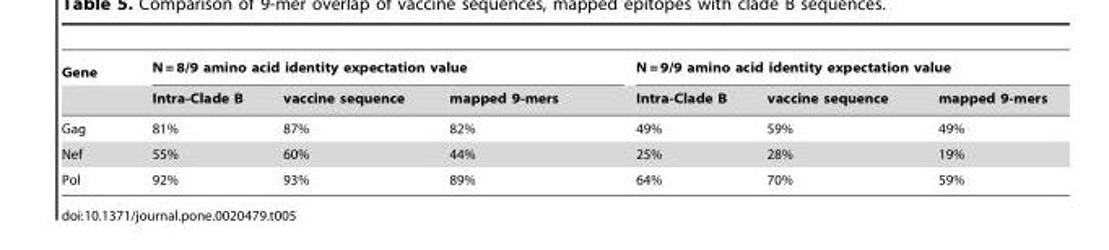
<table><thead><tr><td rowspan="2">Gene</td><td colspan="3">N = 8/9 amino acid identity expectation value</td><td colspan="3">N = 9/9 amino acid identity expectation value</td></tr><tr><td>Intra-Clade B</td><td>vaccine sequence</td><td>mapped 9-mers</td><td>Intra-Clade B</td><td>vaccine sequence</td><td>mapped 9-mers</td></tr></thead><tbody><tr><td>Gag</td><td>81%</td><td>87%</td><td>82%</td><td>49%</td><td>59%</td><td>49%</td></tr><tr><td>Nef</td><td>55%</td><td>60%</td><td>44%</td><td>25%</td><td>28%</td><td>19%</td></tr><tr><td>Pol</td><td>92%</td><td>93%</td><td>89%</td><td>64%</td><td>70%</td><td>59%</td></tr></tbody></table>